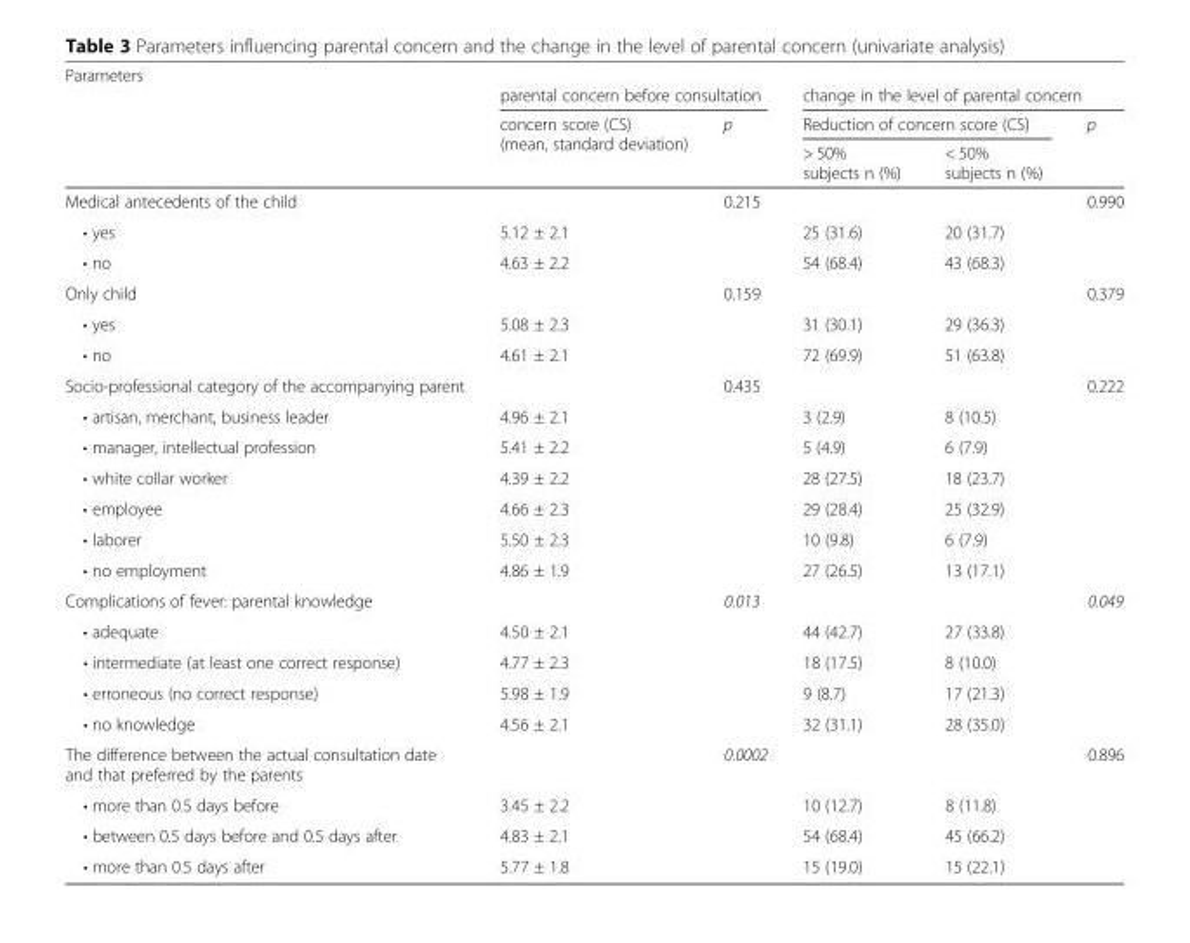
<table><thead><tr><td rowspan="3">Parameters</td><td colspan="2">parental concern before consultation</td><td colspan="3">change in the level of parental concern</td></tr><tr><td rowspan="2">concern score (CS) (mean, standard deviation)</td><td rowspan="2">p</td><td colspan="2">Reduction of concern score (CS)</td><td rowspan="2">p</td></tr><tr><td>&gt; 50% subjects n (%)</td><td>&lt; 50% subjects n (%)</td></tr></thead><tbody><tr><td>Medical antecedents of the child</td><td></td><td>0.215</td><td></td><td></td><td>0.990</td></tr><tr><td>• yes</td><td>5.12 ± 2.1</td><td></td><td>25 (31.6)</td><td>20 (31.7)</td><td></td></tr><tr><td>• no</td><td>4.63 ± 2.2</td><td></td><td>54 (68.4)</td><td>43 (68.3)</td><td></td></tr><tr><td>Only child</td><td></td><td>0.159</td><td></td><td></td><td>0.379</td></tr><tr><td>• yes</td><td>5.08 ± 2.3</td><td></td><td>31 (30.1)</td><td>29 (36.3)</td><td></td></tr><tr><td>• no</td><td>4.61 ± 2.1</td><td></td><td>72 (69.9)</td><td>51 (63.8)</td><td></td></tr><tr><td>Socio-professional category of the accompanying parent</td><td></td><td>0.435</td><td></td><td></td><td>0.222</td></tr><tr><td>• artisan, merchant, business leader</td><td>4.96 ± 2.1</td><td></td><td>3 (2.9)</td><td>8 (10.5)</td><td></td></tr><tr><td>• manager, intellectual profession</td><td>5.41 ± 2.2</td><td></td><td>5 (4.9)</td><td>6 (7.9)</td><td></td></tr><tr><td>• white collar worker</td><td>4.39 ± 2.2</td><td></td><td>28 (27.5)</td><td>18 (23.7)</td><td></td></tr><tr><td>• employee</td><td>4.66 ± 2.3</td><td></td><td>29 (28.4)</td><td>25 (32.9)</td><td></td></tr><tr><td>• laborer</td><td>5.50 ± 2.3</td><td></td><td>10 (9.8)</td><td>6 (7.9)</td><td></td></tr><tr><td>• no employment</td><td>4.86 ± 1.9</td><td></td><td>27 (26.5)</td><td>13 (17.1)</td><td></td></tr><tr><td>Complications of fever: parental knowledge</td><td></td><td>0.013</td><td></td><td></td><td>0.049</td></tr><tr><td>• adequate</td><td>4.50 ± 2.1</td><td></td><td>44 (42.7)</td><td>27 (33.8)</td><td></td></tr><tr><td>• intermediate (at least one correct response)</td><td>4.77 ± 2.3</td><td></td><td>18 (17.5)</td><td>8 (10.0)</td><td></td></tr><tr><td>• erroneous (no correct response)</td><td>5.98 ± 1.9</td><td></td><td>9 (8.7)</td><td>17 (21.3)</td><td></td></tr><tr><td>• no knowledge</td><td>4.56 ± 2.1</td><td></td><td>32 (31.1)</td><td>28 (35.0)</td><td></td></tr><tr><td>The difference between the actual consultation date and that preferred by the parents</td><td></td><td>0.0002</td><td></td><td></td><td>0.896</td></tr><tr><td>• more than 0.5 days before</td><td>3.45 ± 2.2</td><td></td><td>10 (12.7)</td><td>8 (11.8)</td><td></td></tr><tr><td>• between 0.5 days before and 0.5 days after</td><td>4.83 ± 2.1</td><td></td><td>54 (68.4)</td><td>45 (66.2)</td><td></td></tr><tr><td>• more than 0.5 days after</td><td>5.77 ± 1.8</td><td></td><td>15 (19.0)</td><td>15 (22.1)</td><td></td></tr></tbody></table>